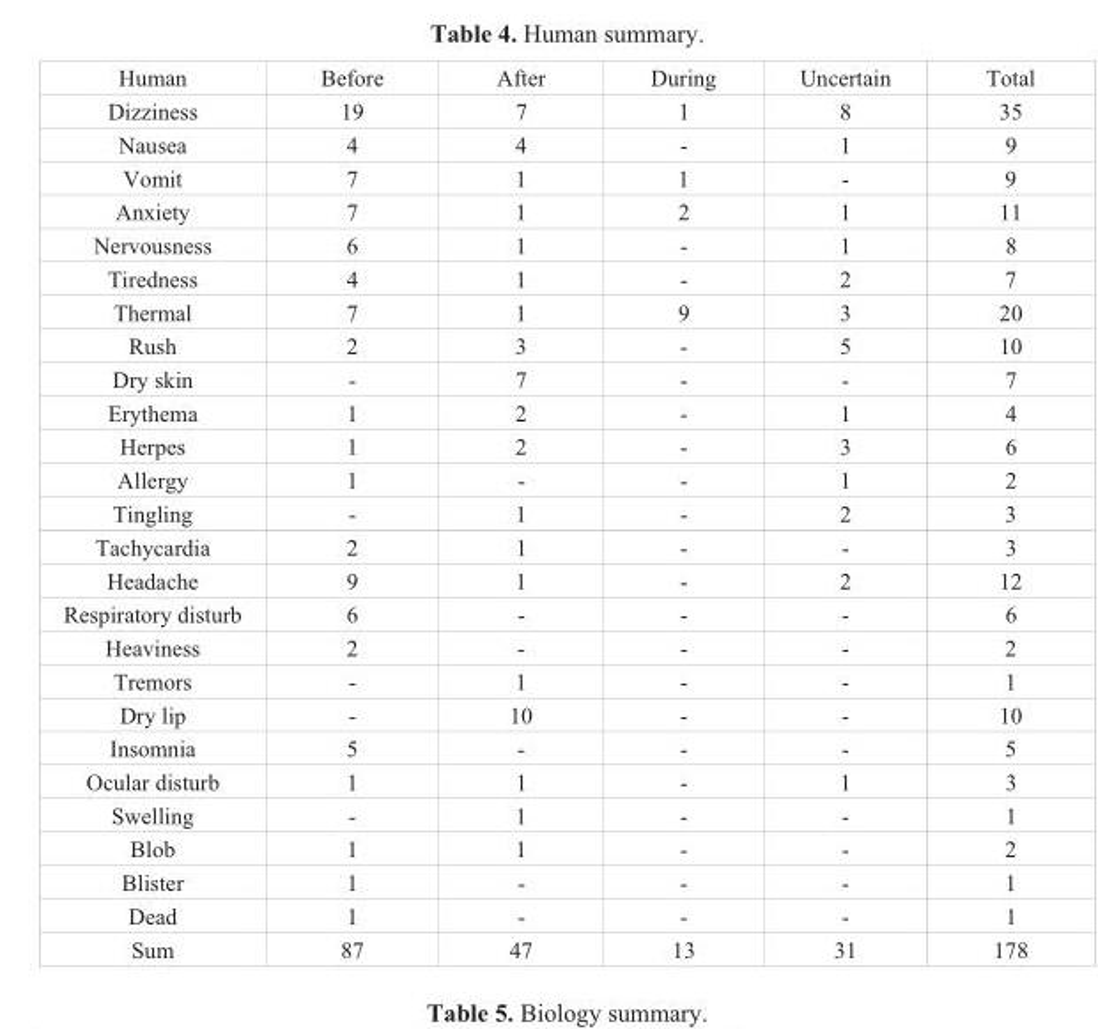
<table><tbody><tr><td>Human</td><td>Before</td><td>After</td><td>During</td><td>Uncertain</td><td>Total</td></tr><tr><td>Dizziness</td><td>19</td><td>7</td><td>1</td><td>8</td><td>35</td></tr><tr><td>Nausea</td><td>4</td><td>4</td><td>-</td><td>1</td><td>9</td></tr><tr><td>Vomit</td><td>7</td><td>1</td><td>1</td><td>-</td><td>9</td></tr><tr><td>Anxiety</td><td>7</td><td>1</td><td>2</td><td>1</td><td>11</td></tr><tr><td>Nervousness</td><td>6</td><td>1</td><td>-</td><td>1</td><td>8</td></tr><tr><td>Tiredness</td><td>4</td><td>1</td><td>-</td><td>2</td><td>7</td></tr><tr><td>Thermal</td><td>7</td><td>1</td><td>9</td><td>3</td><td>20</td></tr><tr><td>Rush</td><td>2</td><td>3</td><td>-</td><td>5</td><td>10</td></tr><tr><td>Dry skin</td><td>-</td><td>7</td><td>-</td><td>-</td><td>7</td></tr><tr><td>Erythema</td><td>1</td><td>2</td><td>-</td><td>1</td><td>4</td></tr><tr><td>Herpes</td><td>1</td><td>2</td><td>-</td><td>3</td><td>6</td></tr><tr><td>Allergy</td><td>1</td><td>-</td><td>-</td><td>1</td><td>2</td></tr><tr><td>Tingling</td><td>-</td><td>1</td><td>-</td><td>2</td><td>3</td></tr><tr><td>Tachycardia</td><td>2</td><td>1</td><td>-</td><td>-</td><td>3</td></tr><tr><td>Headache</td><td>9</td><td>1</td><td>-</td><td>2</td><td>12</td></tr><tr><td>Respiratory disturb</td><td>6</td><td>-</td><td>-</td><td>-</td><td>6</td></tr><tr><td>Heaviness</td><td>2</td><td>-</td><td>-</td><td>-</td><td>2</td></tr><tr><td>Tremors</td><td>-</td><td>1</td><td>-</td><td>-</td><td>1</td></tr><tr><td>Dry lip</td><td>-</td><td>10</td><td>-</td><td>-</td><td>10</td></tr><tr><td>Insomnia</td><td>5</td><td>-</td><td>-</td><td>-</td><td>5</td></tr><tr><td>Ocular disturb</td><td>1</td><td>1</td><td>-</td><td>1</td><td>3</td></tr><tr><td>Swelling</td><td>-</td><td>1</td><td>-</td><td>-</td><td>1</td></tr><tr><td>Blob</td><td>1</td><td>1</td><td>-</td><td>-</td><td>2</td></tr><tr><td>Blister</td><td>1</td><td>-</td><td>-</td><td>-</td><td>1</td></tr><tr><td>Dead</td><td>1</td><td>-</td><td>-</td><td>-</td><td>1</td></tr><tr><td>Sum</td><td>87</td><td>47</td><td>13</td><td>31</td><td>178</td></tr></tbody></table>